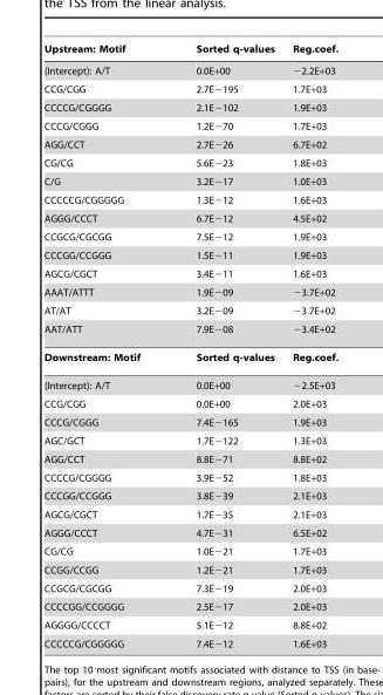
<table><thead><tr><td>Upstream: Motif</td><td>Sorted q-values</td><td>Reg.coef.</td></tr></thead><tbody><tr><td>(Intercept): A/T</td><td>0.0E+00</td><td>−2.2E+03</td></tr><tr><td>CCG/CGG</td><td>2.7E−195</td><td>1.7E+03</td></tr><tr><td>CCCCG/CGGGG</td><td>2.1E−102</td><td>1.9E+03</td></tr><tr><td>CCCG/CGGG</td><td>1.2E−70</td><td>1.7E+03</td></tr><tr><td>AGG/CCT</td><td>2.7E−26</td><td>6.7E+02</td></tr><tr><td>CG/CG</td><td>5.6E−23</td><td>1.8E+03</td></tr><tr><td>C/G</td><td>3.2E−17</td><td>1.0E+03</td></tr><tr><td>CCCCCG/CGGGGG</td><td>1.3E−12</td><td>1.6E+03</td></tr><tr><td>AGGG/CCCT</td><td>6.7E−12</td><td>4.5E+02</td></tr><tr><td>CCGCG/CGCGG</td><td>7.5E−12</td><td>1.9E+03</td></tr><tr><td>CCCGG/CCGGG</td><td>1.5E−11</td><td>1.9E+03</td></tr><tr><td>AGCG/CGCT</td><td>3.4E−11</td><td>1.6E+03</td></tr><tr><td>AAAT/ATTT</td><td>1.9E−09</td><td>−3.7E+02</td></tr><tr><td>AT/AT</td><td>3.2E−09</td><td>−3.7E+02</td></tr><tr><td>AAT/ATT</td><td>7.9E−08</td><td>−3.4E+02</td></tr><tr><td>Downstream: Motif</td><td>Sorted q-values</td><td>Reg.coef.</td></tr><tr><td>(Intercept): A/T</td><td>0.0E+00</td><td>−2.5E+03</td></tr><tr><td>CCG/CGG</td><td>0.0E+00</td><td>2.0E+03</td></tr><tr><td>CCCG/CGGG</td><td>7.4E−165</td><td>1.9E+03</td></tr><tr><td>AGC/GCT</td><td>1.7E−122</td><td>1.3E+03</td></tr><tr><td>AGG/CCT</td><td>8.8E−71</td><td>8.8E+02</td></tr><tr><td>CCCCG/CGGGG</td><td>3.9E−52</td><td>1.8E+03</td></tr><tr><td>CCCGG/CCGGG</td><td>3.8E−39</td><td>2.1E+03</td></tr><tr><td>AGCG/CGCT</td><td>1.7E−35</td><td>2.1E+03</td></tr><tr><td>AGGG/CCCT</td><td>4.7E−31</td><td>6.5E+02</td></tr><tr><td>CG/CG</td><td>1.0E−21</td><td>1.7E+03</td></tr><tr><td>CCGG/CCGG</td><td>1.2E−21</td><td>1.7E+03</td></tr><tr><td>CCGCG/CGCGG</td><td>7.3E−19</td><td>2.0E+03</td></tr><tr><td>CCCCGG/CCGGGG</td><td>2.5E−17</td><td>2.0E+03</td></tr><tr><td>AGGGG/CCCCT</td><td>5.1E−12</td><td>8.8E+02</td></tr><tr><td>CCCCCG/CGGGGG</td><td>7.4E−12</td><td>1.6E+03</td></tr></tbody></table>